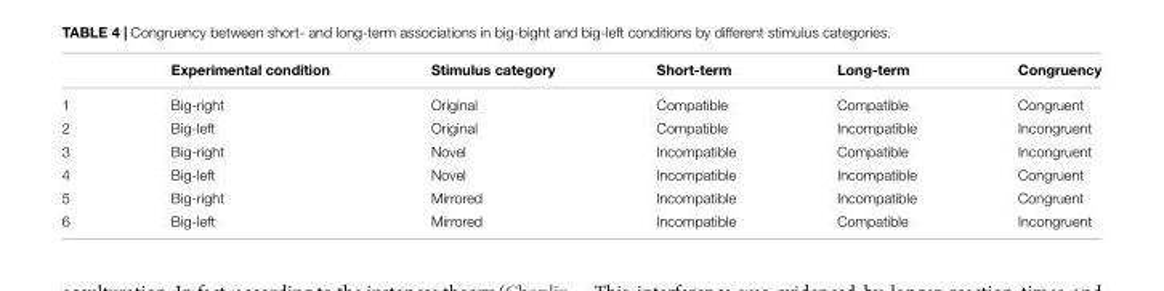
<table><thead><tr><td></td><td>Experimental condition</td><td>Stimulus category</td><td>Short-term</td><td>Long-term</td><td>Congruency</td></tr></thead><tbody><tr><td>1</td><td>Big-right</td><td>Original</td><td>Compatible</td><td>Compatible</td><td>Congruent</td></tr><tr><td>2</td><td>Big-left</td><td>Original</td><td>Compatible</td><td>Incompatible</td><td>Incongruent</td></tr><tr><td>3</td><td>Big-right</td><td>Novel</td><td>Incompatible</td><td>Compatible</td><td>Incongruent</td></tr><tr><td>4</td><td>Big-left</td><td>Novel</td><td>Incompatible</td><td>Incompatible</td><td>Congruent</td></tr><tr><td>5</td><td>Big-right</td><td>Mirrored</td><td>Incompatible</td><td>Incompatible</td><td>Congruent</td></tr><tr><td>6</td><td>Big-left</td><td>Mirrored</td><td>Incompatible</td><td>Compatible</td><td>Incongruent</td></tr></tbody></table>